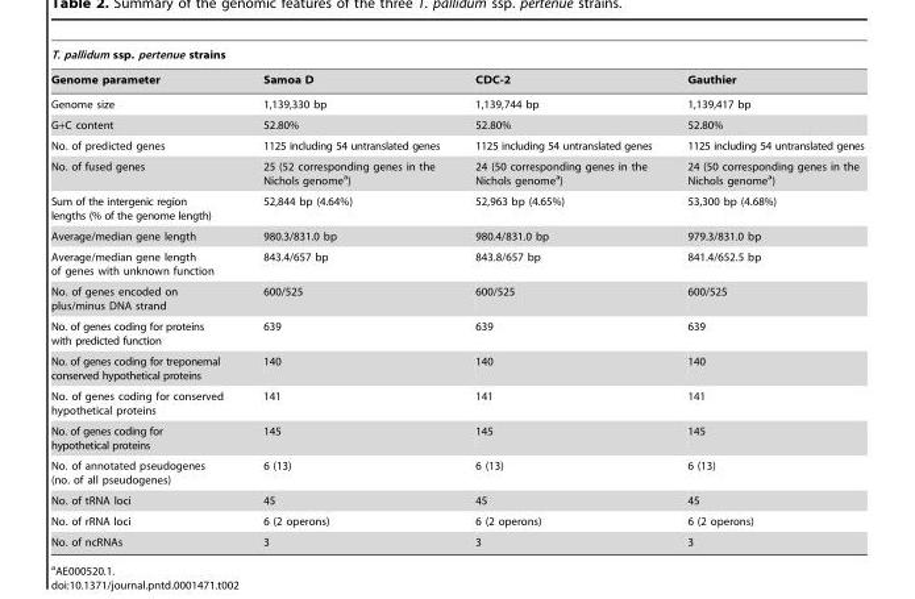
<table><thead><tr><td colspan="4">T. pallidum ssp. pertenue strains</td></tr><tr><td>Genome parameter</td><td>Samoa D</td><td>CDC-2</td><td>Gauthier</td></tr></thead><tbody><tr><td>Genome size</td><td>1,139,330 bp</td><td>1,139,744 bp</td><td>1,139,417 bp</td></tr><tr><td>G+C content</td><td>52.80%</td><td>52.80%</td><td>52.80%</td></tr><tr><td>No. of predicted genes</td><td>1125 including 54 untranslated genes</td><td>1125 including 54 untranslated genes</td><td>1125 including 54 untranslated genes</td></tr><tr><td>No. of fused genes</td><td>25 (52 corresponding genes in the Nichols genome<sup>a</sup>)</td><td>24 (50 corresponding genes in the Nichols genome<sup>a</sup>)</td><td>24 (50 corresponding genes in the Nichols genome<sup>a</sup>)</td></tr><tr><td>Sum of the intergenic region lengths (% of the genome length)</td><td>52,844 bp (4.64%)</td><td>52,963 bp (4.65%)</td><td>53,300 bp (4.68%)</td></tr><tr><td>Average/median gene length</td><td>980.3/831.0 bp</td><td>980.4/831.0 bp</td><td>979.3/831.0 bp</td></tr><tr><td>Average/median gene length of genes with unknown function</td><td>843.4/657 bp</td><td>843.8/657 bp</td><td>841.4/652.5 bp</td></tr><tr><td>No. of genes encoded on plus/minus DNA strand</td><td>600/525</td><td>600/525</td><td>600/525</td></tr><tr><td>No. of genes coding for proteins with predicted function</td><td>639</td><td>639</td><td>639</td></tr><tr><td>No. of genes coding for treponemal conserved hypothetical proteins</td><td>140</td><td>140</td><td>140</td></tr><tr><td>No. of genes coding for conserved hypothetical proteins</td><td>141</td><td>141</td><td>141</td></tr><tr><td>No. of genes coding for hypothetical proteins</td><td>145</td><td>145</td><td>145</td></tr><tr><td>No. of annotated pseudogenes (no. of all pseudogenes)</td><td>6 (13)</td><td>6 (13)</td><td>6 (13)</td></tr><tr><td>No. of tRNA loci</td><td>45</td><td>45</td><td>45</td></tr><tr><td>No. of rRNA loci</td><td>6 (2 operons)</td><td>6 (2 operons)</td><td>6 (2 operons)</td></tr><tr><td>No. of ncRNAs</td><td>3</td><td>3</td><td>3</td></tr></tbody></table>